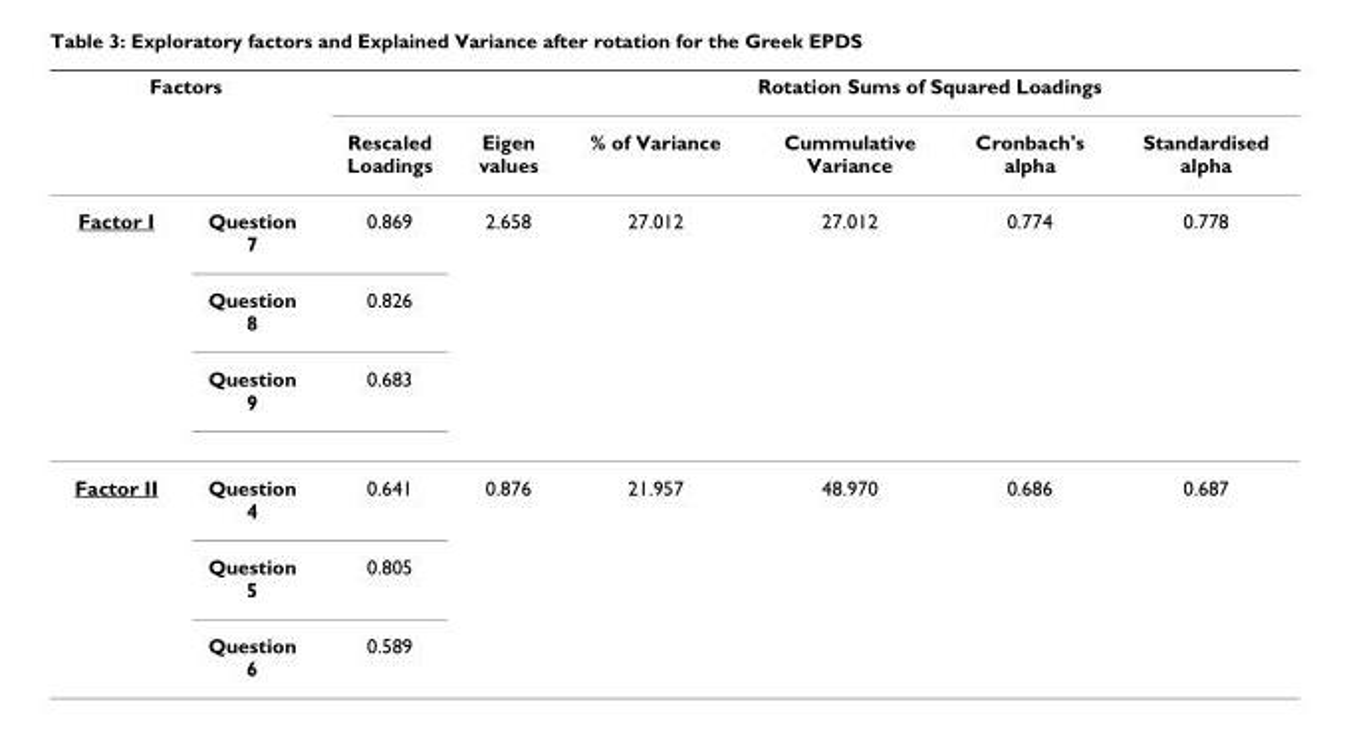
<table><thead><tr><td colspan="2">Factors</td><td rowspan="2">Rescaled Loadings</td><td rowspan="2">Eigen values</td><td colspan="4">Rotation Sums of Squared Loadings</td></tr><tr><td></td><td></td><td>% of Variance</td><td>Cummulative Variance</td><td>Cronbach&#x27;s alpha</td><td>Standardised alpha</td></tr></thead><tbody><tr><td rowspan="3">Factor I</td><td>Question 7</td><td>0.869</td><td>2.658</td><td>27.012</td><td>27.012</td><td>0.774</td><td>0.778</td></tr><tr><td>Question 8</td><td>0.826</td><td></td><td></td><td></td><td></td><td></td></tr><tr><td>Question 9</td><td>0.683</td><td></td><td></td><td></td><td></td><td></td></tr><tr><td rowspan="3">Factor II</td><td>Question 4</td><td>0.641</td><td>0.876</td><td>21.957</td><td>48.970</td><td>0.686</td><td>0.687</td></tr><tr><td>Question 5</td><td>0.805</td><td></td><td></td><td></td><td></td><td></td></tr><tr><td>Question 6</td><td>0.589</td><td></td><td></td><td></td><td></td><td></td></tr></tbody></table>